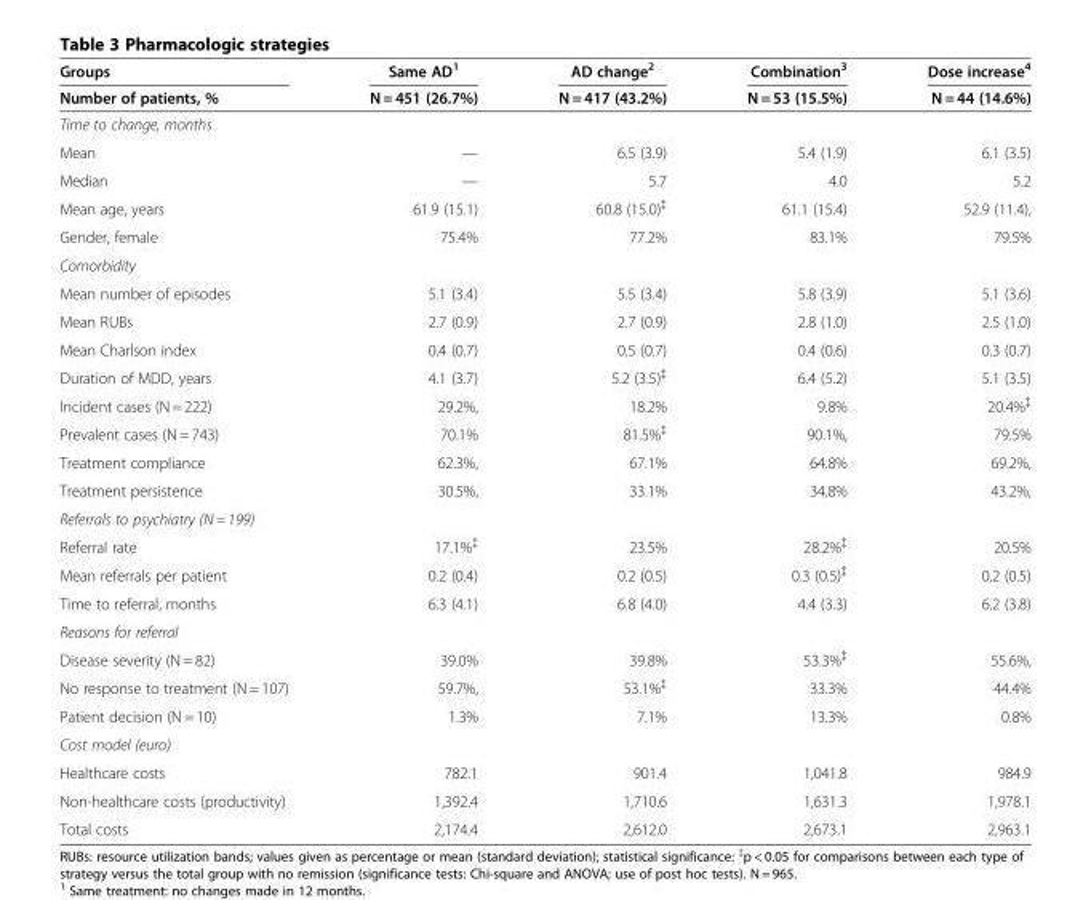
<table><thead><tr><td rowspan="2">Groups Number of patients, %</td><td rowspan="2">Same AD<sup>1</sup> N = 451 (26.7%)</td><td rowspan="2">AD change<sup>2</sup> N = 417 (43.2%)</td><td rowspan="2">Combination<sup>3</sup> N = 53 (15.5%)</td><td rowspan="2">Dose increase<sup>4</sup> N = 44 (14.6%)</td></tr><tr></tr></thead><tbody><tr><td colspan="5">Time to change, months</td></tr><tr><td>Mean</td><td>—</td><td>6.5 (3.9)</td><td>5.4 (1.9)</td><td>6.1 (3.5)</td></tr><tr><td>Median</td><td>—</td><td>5.7</td><td>4.0</td><td>5.2</td></tr><tr><td>Mean age, years</td><td>61.9 (15.1)</td><td>60.8 (15.0)<sup>‡</sup></td><td>61.1 (15.4)</td><td>52.9 (11.4),</td></tr><tr><td>Gender, female</td><td>75.4%</td><td>77.2%</td><td>83.1%</td><td>79.5%</td></tr><tr><td colspan="5">Comorbidity</td></tr><tr><td>Mean number of episodes</td><td>5.1 (3.4)</td><td>5.5 (3.4)</td><td>5.8 (3.9)</td><td>5.1 (3.6)</td></tr><tr><td>Mean RUBs</td><td>2.7 (0.9)</td><td>2.7 (0.9)</td><td>2.8 (1.0)</td><td>2.5 (1.0)</td></tr><tr><td>Mean Charlson index</td><td>0.4 (0.7)</td><td>0.5 (0.7)</td><td>0.4 (0.6)</td><td>0.3 (0.7)</td></tr><tr><td>Duration of MDD, years</td><td>4.1 (3.7)</td><td>5.2 (3.5)<sup>‡</sup></td><td>6.4 (5.2)</td><td>5.1 (3.5)</td></tr><tr><td>Incident cases (N = 222)</td><td>29.2%,</td><td>18.2%</td><td>9.8%</td><td>20.4%<sup>‡</sup></td></tr><tr><td>Prevalent cases (N = 743)</td><td>70.1%</td><td>81.5%<sup>‡</sup></td><td>90.1%,</td><td>79.5%</td></tr><tr><td>Treatment compliance</td><td>62.3%,</td><td>67.1%</td><td>64.8%</td><td>69.2%,</td></tr><tr><td>Treatment persistence</td><td>30.5%,</td><td>33.1%</td><td>34.8%</td><td>43.2%,</td></tr><tr><td colspan="5">Referrals to psychiatry (N = 199)</td></tr><tr><td>Referral rate</td><td>17.1%<sup>‡</sup></td><td>23.5%</td><td>28.2%<sup>‡</sup></td><td>20.5%</td></tr><tr><td>Mean referrals per patient</td><td>0.2 (0.4)</td><td>0.2 (0.5)</td><td>0.3 (0.5)<sup>‡</sup></td><td>0.2 (0.5)</td></tr><tr><td>Time to referral, months</td><td>6.3 (4.1)</td><td>6.8 (4.0)</td><td>4.4 (3.3)</td><td>6.2 (3.8)</td></tr><tr><td colspan="5">Reasons for referral</td></tr><tr><td>Disease severity (N = 82)</td><td>39.0%</td><td>39.8%</td><td>53.3%<sup>‡</sup></td><td>55.6%,</td></tr><tr><td>No response to treatment (N = 107)</td><td>59.7%,</td><td>53.1%<sup>‡</sup></td><td>33.3%</td><td>44.4%</td></tr><tr><td>Patient decision (N = 10)</td><td>1.3%</td><td>7.1%</td><td>13.3%</td><td>0.8%</td></tr><tr><td colspan="5">Cost model (euro)</td></tr><tr><td>Healthcare costs</td><td>782.1</td><td>901.4</td><td>1,041.8</td><td>984.9</td></tr><tr><td>Non-healthcare costs (productivity)</td><td>1,392.4</td><td>1,710.6</td><td>1,631.3</td><td>1,978.1</td></tr><tr><td>Total costs</td><td>2,174.4</td><td>2,612.0</td><td>2,673.1</td><td>2,963.1</td></tr></tbody></table>